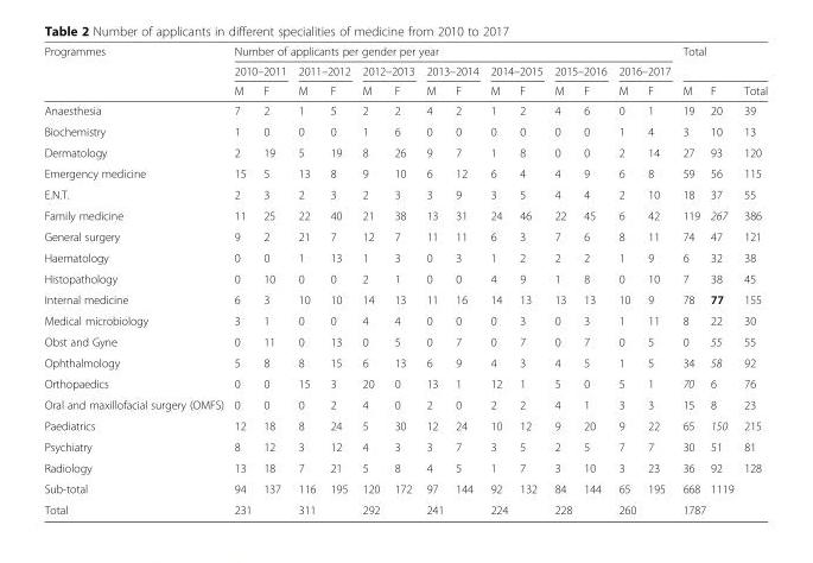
<table><thead><tr><td rowspan="3">Programmes</td><td colspan="14">Number of applicants per gender per year</td><td rowspan="2" colspan="3">Total</td></tr><tr><td colspan="2">2010–2011</td><td colspan="2">2011–2012</td><td colspan="2">2012–2013</td><td colspan="2">2013–2014</td><td colspan="2">2014–2015</td><td colspan="2">2015–2016</td><td colspan="2">2016–2017</td></tr><tr><td>M</td><td>F</td><td>M</td><td>F</td><td>M</td><td>F</td><td>M</td><td>F</td><td>M</td><td>F</td><td>M</td><td>F</td><td>M</td><td>F</td><td>M</td><td>F</td><td>Total</td></tr></thead><tbody><tr><td>Anaesthesia</td><td>7</td><td>2</td><td>1</td><td>5</td><td>2</td><td>2</td><td>4</td><td>2</td><td>1</td><td>2</td><td>4</td><td>6</td><td>0</td><td>1</td><td>19</td><td>20</td><td>39</td></tr><tr><td>Biochemistry</td><td>1</td><td>0</td><td>0</td><td>0</td><td>1</td><td>6</td><td>0</td><td>0</td><td>0</td><td>0</td><td>0</td><td>0</td><td>1</td><td>4</td><td>3</td><td>10</td><td>13</td></tr><tr><td>Dermatology</td><td>2</td><td>19</td><td>5</td><td>19</td><td>8</td><td>26</td><td>9</td><td>7</td><td>1</td><td>8</td><td>0</td><td>0</td><td>2</td><td>14</td><td>27</td><td>93</td><td>120</td></tr><tr><td>Emergency medicine</td><td>15</td><td>5</td><td>13</td><td>8</td><td>9</td><td>10</td><td>6</td><td>12</td><td>6</td><td>4</td><td>4</td><td>9</td><td>6</td><td>8</td><td>59</td><td>56</td><td>115</td></tr><tr><td>E.N.T.</td><td>2</td><td>3</td><td>2</td><td>3</td><td>2</td><td>3</td><td>3</td><td>9</td><td>3</td><td>5</td><td>4</td><td>4</td><td>2</td><td>10</td><td>18</td><td>37</td><td>55</td></tr><tr><td>Family medicine</td><td>11</td><td>25</td><td>22</td><td>40</td><td>21</td><td>38</td><td>13</td><td>31</td><td>24</td><td>46</td><td>22</td><td>45</td><td>6</td><td>42</td><td>119</td><td>267</td><td>386</td></tr><tr><td>General surgery</td><td>9</td><td>2</td><td>21</td><td>7</td><td>12</td><td>7</td><td>11</td><td>11</td><td>6</td><td>3</td><td>7</td><td>6</td><td>8</td><td>11</td><td>74</td><td>47</td><td>121</td></tr><tr><td>Haematology</td><td>0</td><td>0</td><td>1</td><td>13</td><td>1</td><td>3</td><td>0</td><td>3</td><td>1</td><td>2</td><td>2</td><td>2</td><td>1</td><td>9</td><td>6</td><td>32</td><td>38</td></tr><tr><td>Histopathology</td><td>0</td><td>10</td><td>0</td><td>0</td><td>2</td><td>1</td><td>0</td><td>0</td><td>4</td><td>9</td><td>1</td><td>8</td><td>0</td><td>10</td><td>7</td><td>38</td><td>45</td></tr><tr><td>Internal medicine</td><td>6</td><td>3</td><td>10</td><td>10</td><td>14</td><td>13</td><td>11</td><td>16</td><td>14</td><td>13</td><td>13</td><td>13</td><td>10</td><td>9</td><td>78</td><td>77</td><td>155</td></tr><tr><td>Medical microbiology</td><td>3</td><td>1</td><td>0</td><td>0</td><td>4</td><td>4</td><td>0</td><td>0</td><td>0</td><td>3</td><td>0</td><td>3</td><td>1</td><td>11</td><td>8</td><td>22</td><td>30</td></tr><tr><td>Obst and Gyne</td><td>0</td><td>11</td><td>0</td><td>13</td><td>0</td><td>5</td><td>0</td><td>7</td><td>0</td><td>7</td><td>0</td><td>7</td><td>0</td><td>5</td><td>0</td><td>55</td><td>55</td></tr><tr><td>Ophthalmology</td><td>5</td><td>8</td><td>8</td><td>15</td><td>6</td><td>13</td><td>6</td><td>9</td><td>4</td><td>3</td><td>4</td><td>5</td><td>1</td><td>5</td><td>34</td><td>58</td><td>92</td></tr><tr><td>Orthopaedics</td><td>0</td><td>0</td><td>15</td><td>3</td><td>20</td><td>0</td><td>13</td><td>1</td><td>12</td><td>1</td><td>5</td><td>0</td><td>5</td><td>1</td><td>70</td><td>6</td><td>76</td></tr><tr><td>Oral and maxillofacial surgery (OMFS)</td><td>0</td><td>0</td><td>0</td><td>2</td><td>4</td><td>0</td><td>2</td><td>0</td><td>2</td><td>2</td><td>4</td><td>1</td><td>3</td><td>3</td><td>15</td><td>8</td><td>23</td></tr><tr><td>Paediatrics</td><td>12</td><td>18</td><td>8</td><td>24</td><td>5</td><td>30</td><td>12</td><td>24</td><td>10</td><td>12</td><td>9</td><td>20</td><td>9</td><td>22</td><td>65</td><td>150</td><td>215</td></tr><tr><td>Psychiatry</td><td>8</td><td>12</td><td>3</td><td>12</td><td>4</td><td>3</td><td>3</td><td>7</td><td>3</td><td>5</td><td>2</td><td>5</td><td>7</td><td>7</td><td>30</td><td>51</td><td>81</td></tr><tr><td>Radiology</td><td>13</td><td>18</td><td>7</td><td>21</td><td>5</td><td>8</td><td>4</td><td>5</td><td>1</td><td>7</td><td>3</td><td>10</td><td>3</td><td>23</td><td>36</td><td>92</td><td>128</td></tr><tr><td>Sub-total</td><td>94</td><td>137</td><td>116</td><td>195</td><td>120</td><td>172</td><td>97</td><td>144</td><td>92</td><td>132</td><td>84</td><td>144</td><td>65</td><td>195</td><td>668</td><td>1119</td><td></td></tr><tr><td>Total</td><td colspan="2">231</td><td colspan="2">311</td><td colspan="2">292</td><td colspan="2">241</td><td colspan="2">224</td><td colspan="2">228</td><td colspan="2">260</td><td colspan="3">1787</td></tr></tbody></table>